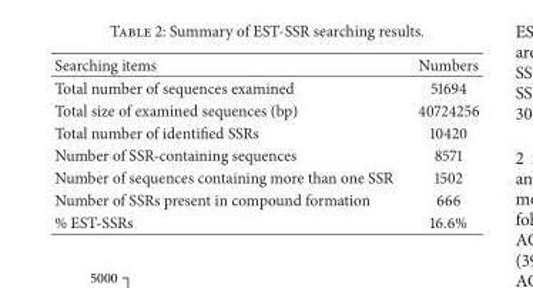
<table><thead><tr><td>Searching items</td><td>Numbers</td></tr></thead><tbody><tr><td>Total number of sequences examined</td><td>51694</td></tr><tr><td>Total size of examined sequences (bp)</td><td>40724256</td></tr><tr><td>Total number of identified SSRs</td><td>10420</td></tr><tr><td>Number of SSR-containing sequences</td><td>8571</td></tr><tr><td>Number of sequences containing more than one SSR</td><td>1502</td></tr><tr><td>Number of SSRs present in compound formation</td><td>666</td></tr><tr><td>% EST-SSRs</td><td>16.6%</td></tr></tbody></table>